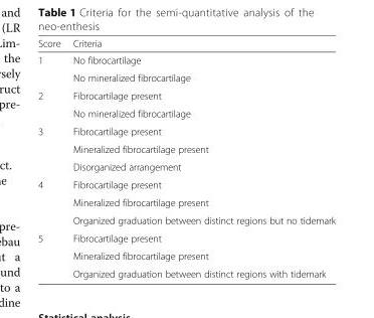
<table><thead><tr><td>Score</td><td>Criteria</td></tr></thead><tbody><tr><td rowspan="2">1</td><td>No fibrocartilage</td></tr><tr><td>No mineralized fibrocartilage</td></tr><tr><td rowspan="2">2</td><td>Fibrocartilage present</td></tr><tr><td>No mineralized fibrocartilage</td></tr><tr><td rowspan="3">3</td><td>Fibrocartilage present</td></tr><tr><td>Mineralized fibrocartilage present</td></tr><tr><td>Disorganized arrangement</td></tr><tr><td rowspan="3">4</td><td>Fibrocartilage present</td></tr><tr><td>Mineralized fibrocartilage present</td></tr><tr><td>Organized graduation between distinct regions but no tidemark</td></tr><tr><td rowspan="3">5</td><td>Fibrocartilage present</td></tr><tr><td>Mineralized fibrocartilage present</td></tr><tr><td>Organized graduation between distinct regions with tidemark</td></tr></tbody></table>